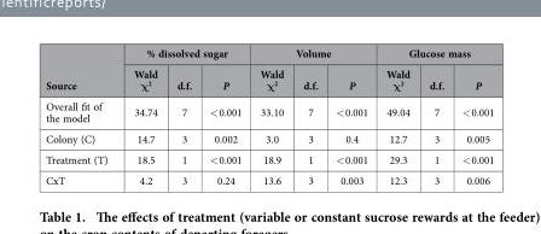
<table><thead><tr><td rowspan="2">Source</td><td colspan="3">% dissolved sugar</td><td colspan="3">Volume</td><td colspan="3">Glucose mass</td></tr><tr><td>Wald χ<sup>2</sup></td><td>d.f.</td><td>P</td><td>Wald χ<sup>2</sup></td><td>d.f.</td><td>P</td><td>Wald χ<sup>2</sup></td><td>d.f.</td><td>P</td></tr></thead><tbody><tr><td>Overall fit of the model</td><td>34.74</td><td>7</td><td>&lt; 0.001</td><td>33.10</td><td>7</td><td>&lt; 0.001</td><td>49.04</td><td>7</td><td>&lt; 0.001</td></tr><tr><td>Colony (C)</td><td>14.7</td><td>3</td><td>0.002</td><td>3.0</td><td>3</td><td>0.4</td><td>12.7</td><td>3</td><td>0.005</td></tr><tr><td>Treatment (T)</td><td>18.5</td><td>1</td><td>&lt; 0.001</td><td>18.9</td><td>1</td><td>&lt; 0.001</td><td>29.3</td><td>1</td><td>&lt; 0.001</td></tr><tr><td>CxT</td><td>4.2</td><td>3</td><td>0.24</td><td>13.6</td><td>3</td><td>0.003</td><td>12.3</td><td>3</td><td>0.006</td></tr></tbody></table>